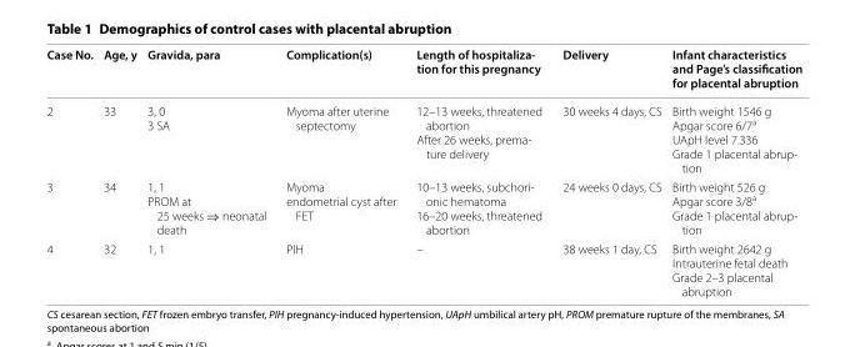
<table><thead><tr><td>Case No.</td><td>Age, y</td><td>Gravida, para</td><td>Complication(s)</td><td>Length of hospitaliza- tion for this pregnancy</td><td>Delivery</td><td>Infant characteristics and Page’s classification for placental abruption</td></tr></thead><tbody><tr><td>2</td><td>33</td><td>3, 0 3 SA</td><td>Myoma after uterine septectomy</td><td>12–13 weeks, threatened abortion After 26 weeks, prema‑ ture delivery</td><td>30 weeks 4 days, CS</td><td>Birth weight 1546 g Apgar score 6/7a UApH level 7.336 Grade 1 placental abrup‑ tion</td></tr><tr><td>3</td><td>34</td><td>1, 1 PROM at 25 weeks ⇒ neonatal death</td><td>Myoma endometrial cyst after FET</td><td>10–13 weeks, subchori‑ onic hematoma 16–20 weeks, threatened abortion</td><td>24 weeks 0 days, CS</td><td>Birth weight 526 g Apgar score 3/8a Grade 1 placental abrup‑ tion</td></tr><tr><td>4</td><td>32</td><td>1, 1</td><td>PIH</td><td>–</td><td>38 weeks 1 day, CS</td><td>Birth weight 2642 g Intrauterine fetal death Grade 2–3 placental abruption</td></tr></tbody></table>